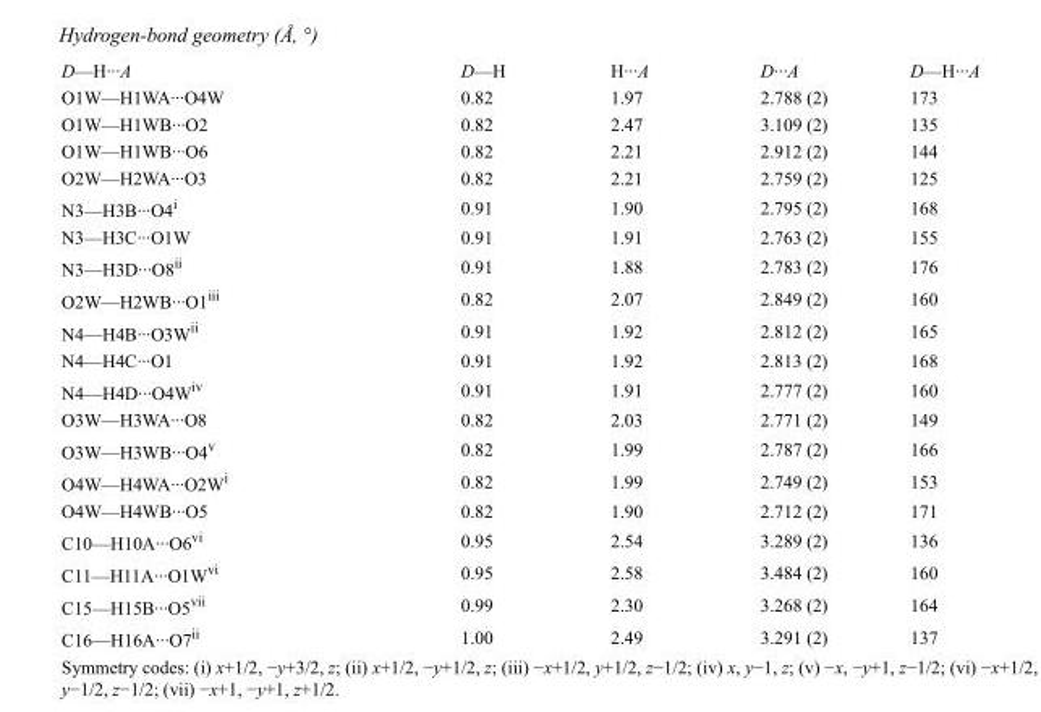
<table><tbody><tr><td>D—H···A</td><td>D—H</td><td>H···A</td><td>D···A</td><td>D—H···A</td></tr><tr><td>O1W—H1WA···O4W</td><td>0.82</td><td>1.97</td><td>2.788 (2)</td><td>173</td></tr><tr><td>O1W—H1WB···O2</td><td>0.82</td><td>2.47</td><td>3.109 (2)</td><td>135</td></tr><tr><td>O1W—H1WB···O6</td><td>0.82</td><td>2.21</td><td>2.912 (2)</td><td>144</td></tr><tr><td>O2W—H2WA···O3</td><td>0.82</td><td>2.21</td><td>2.759 (2)</td><td>125</td></tr><tr><td>N3—H3B···O4<sup>i</sup></td><td>0.91</td><td>1.90</td><td>2.795 (2)</td><td>168</td></tr><tr><td>N3—H3C···O1W</td><td>0.91</td><td>1.91</td><td>2.763 (2)</td><td>155</td></tr><tr><td>N3—H3D···O8<sup>ii</sup></td><td>0.91</td><td>1.88</td><td>2.783 (2)</td><td>176</td></tr><tr><td>O2W—H2WB···O1<sup>iii</sup></td><td>0.82</td><td>2.07</td><td>2.849 (2)</td><td>160</td></tr><tr><td>N4—H4B···O3W<sup>ii</sup></td><td>0.91</td><td>1.92</td><td>2.812 (2)</td><td>165</td></tr><tr><td>N4—H4C···O1</td><td>0.91</td><td>1.92</td><td>2.813 (2)</td><td>168</td></tr><tr><td>N4—H4D···O4W<sup>iv</sup></td><td>0.91</td><td>1.91</td><td>2.777 (2)</td><td>160</td></tr><tr><td>O3W—H3WA···O8</td><td>0.82</td><td>2.03</td><td>2.771 (2)</td><td>149</td></tr><tr><td>O3W—H3WB···O4<sup>v</sup></td><td>0.82</td><td>1.99</td><td>2.787 (2)</td><td>166</td></tr><tr><td>O4W—H4WA···O2W<sup>i</sup></td><td>0.82</td><td>1.99</td><td>2.749 (2)</td><td>153</td></tr><tr><td>O4W—H4WB···O5</td><td>0.82</td><td>1.90</td><td>2.712 (2)</td><td>171</td></tr><tr><td>C10—H10A···O6<sup>vi</sup></td><td>0.95</td><td>2.54</td><td>3.289 (2)</td><td>136</td></tr><tr><td>C11—H11A···O1W<sup>vi</sup></td><td>0.95</td><td>2.58</td><td>3.484 (2)</td><td>160</td></tr><tr><td>C15—H15B···O5<sup>vii</sup></td><td>0.99</td><td>2.30</td><td>3.268 (2)</td><td>164</td></tr><tr><td>C16—H16A···O7<sup>ii</sup></td><td>1.00</td><td>2.49</td><td>3.291 (2)</td><td>137</td></tr></tbody></table>